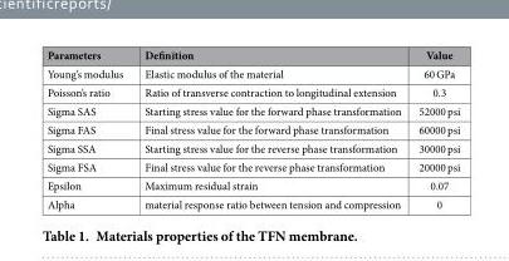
<table><thead><tr><td>Parameters</td><td>Definition</td><td>Value</td></tr></thead><tbody><tr><td>Young’s modulus</td><td>Elastic modulus of the material</td><td>60 GPa</td></tr><tr><td>Poisson’s ratio</td><td>Ratio of transverse contraction to longitudinal extension</td><td>0.3</td></tr><tr><td>Sigma SAS</td><td>Starting stress value for the forward phase transformation</td><td>52000 psi</td></tr><tr><td>Sigma FAS</td><td>Final stress value for the forward phase transformation</td><td>60000 psi</td></tr><tr><td>Sigma SSA</td><td>Starting stress value for the reverse phase transformation</td><td>30000 psi</td></tr><tr><td>Sigma FSA</td><td>Final stress value for the reverse phase transformation</td><td>20000 psi</td></tr><tr><td>Epsilon</td><td>Maximum residual strain</td><td>0.07</td></tr><tr><td>Alpha</td><td>material response ratio between tension and compression</td><td>0</td></tr></tbody></table>